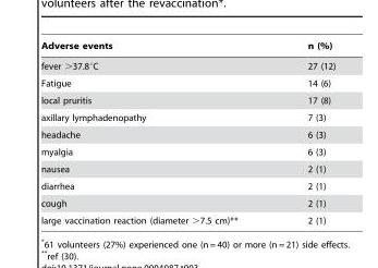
<table><thead><tr><td>Adverse events</td><td>n (%)</td></tr></thead><tbody><tr><td>fever &gt;37.8°C</td><td>27 (12)</td></tr><tr><td>Fatigue</td><td>14 (6)</td></tr><tr><td>local pruritis</td><td>17 (8)</td></tr><tr><td>axillary lymphadenopathy</td><td>7 (3)</td></tr><tr><td>headache</td><td>6 (3)</td></tr><tr><td>myalgia</td><td>6 (3)</td></tr><tr><td>nausea</td><td>2 (1)</td></tr><tr><td>diarrhea</td><td>2 (1)</td></tr><tr><td>cough</td><td>2 (1)</td></tr><tr><td>large vaccination reaction (diameter &gt;7.5 cm)**</td><td>2 (1)</td></tr></tbody></table>